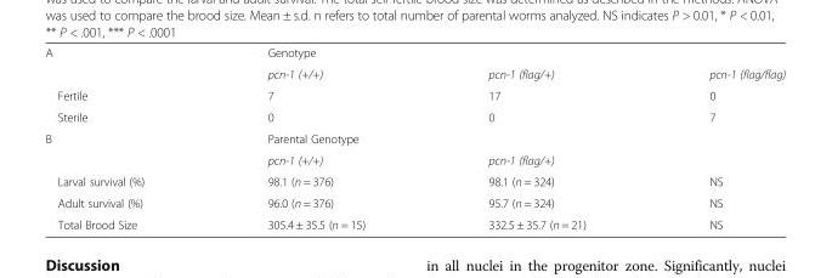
<table><tbody><tr><td rowspan="2">A</td><td colspan="3">Genotype</td></tr><tr><td>pcn-1 (+/+)</td><td>pcn-1 (flag/+)</td><td>pcn-1 (flag/flag)</td></tr><tr><td>Fertile</td><td>7</td><td>17</td><td>0</td></tr><tr><td>Sterile</td><td>0</td><td>0</td><td>7</td></tr><tr><td rowspan="2">B</td><td colspan="3">Parental Genotype</td></tr><tr><td>pcn-1 (+/+)</td><td>pcn-1 (flag/+)</td><td></td></tr><tr><td>Larval survival (%)</td><td>98.1 (n = 376)</td><td>98.1 (n = 324)</td><td>NS</td></tr><tr><td>Adult survival (%)</td><td>96.0 (n = 376)</td><td>95.7 (n = 324)</td><td>NS</td></tr><tr><td>Total Brood Size</td><td>305.4 ± 35.5 (n = 15)</td><td>332.5 ± 35.7 (n = 21)</td><td>NS</td></tr></tbody></table>